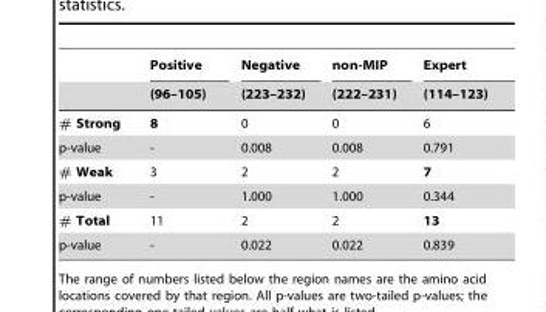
<table><thead><tr><td rowspan="2"></td><td rowspan="2">Positive (96–105)</td><td rowspan="2">Negative (223–232)</td><td rowspan="2">non-MIP (222–231)</td><td rowspan="2">Expert (114–123)</td></tr><tr></tr></thead><tbody><tr><td># Strong</td><td>8</td><td>0</td><td>0</td><td>6</td></tr><tr><td>p-value</td><td>-</td><td>0.008</td><td>0.008</td><td>0.791</td></tr><tr><td># Weak</td><td>3</td><td>2</td><td>2</td><td>7</td></tr><tr><td>p-value</td><td>-</td><td>1.000</td><td>1.000</td><td>0.344</td></tr><tr><td># Total</td><td>11</td><td>2</td><td>2</td><td>13</td></tr><tr><td>p-value</td><td>-</td><td>0.022</td><td>0.022</td><td>0.839</td></tr></tbody></table>